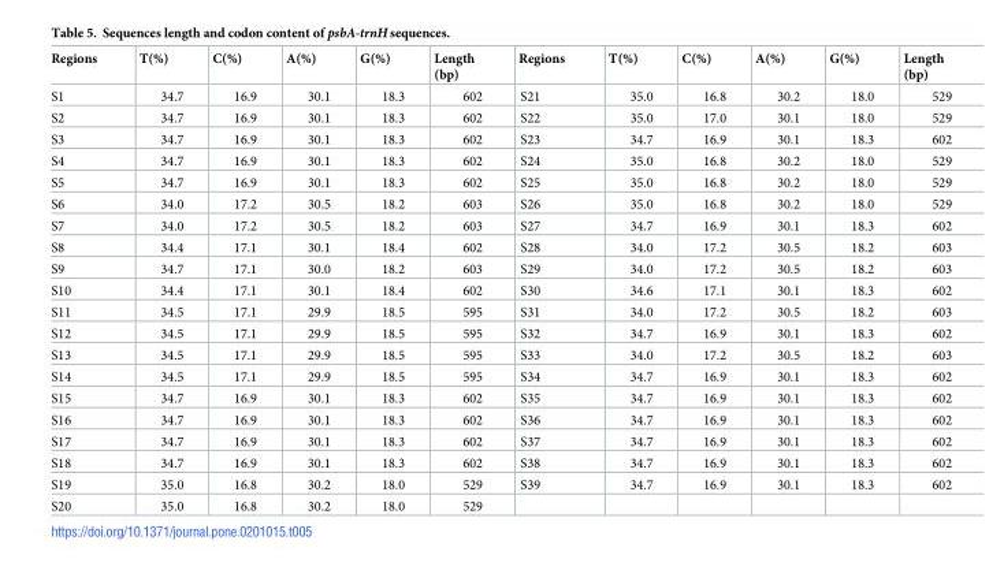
<table><thead><tr><td>Regions</td><td>T(%)</td><td>C(%)</td><td>A(%)</td><td>G(%)</td><td>Length (bp)</td><td>Regions</td><td>T(%)</td><td>C(%)</td><td>A(%)</td><td>G(%)</td><td>Length (bp)</td></tr></thead><tbody><tr><td>S1</td><td>34.7</td><td>16.9</td><td>30.1</td><td>18.3</td><td>602</td><td>S21</td><td>35.0</td><td>16.8</td><td>30.2</td><td>18.0</td><td>529</td></tr><tr><td>S2</td><td>34.7</td><td>16.9</td><td>30.1</td><td>18.3</td><td>602</td><td>S22</td><td>35.0</td><td>17.0</td><td>30.1</td><td>18.0</td><td>529</td></tr><tr><td>S3</td><td>34.7</td><td>16.9</td><td>30.1</td><td>18.3</td><td>602</td><td>S23</td><td>34.7</td><td>16.9</td><td>30.1</td><td>18.3</td><td>602</td></tr><tr><td>S4</td><td>34.7</td><td>16.9</td><td>30.1</td><td>18.3</td><td>602</td><td>S24</td><td>35.0</td><td>16.8</td><td>30.2</td><td>18.0</td><td>529</td></tr><tr><td>S5</td><td>34.7</td><td>16.9</td><td>30.1</td><td>18.3</td><td>602</td><td>S25</td><td>35.0</td><td>16.8</td><td>30.2</td><td>18.0</td><td>529</td></tr><tr><td>S6</td><td>34.0</td><td>17.2</td><td>30.5</td><td>18.2</td><td>603</td><td>S26</td><td>35.0</td><td>16.8</td><td>30.2</td><td>18.0</td><td>529</td></tr><tr><td>S7</td><td>34.0</td><td>17.2</td><td>30.5</td><td>18.2</td><td>603</td><td>S27</td><td>34.7</td><td>16.9</td><td>30.1</td><td>18.3</td><td>602</td></tr><tr><td>S8</td><td>34.4</td><td>17.1</td><td>30.1</td><td>18.4</td><td>602</td><td>S28</td><td>34.0</td><td>17.2</td><td>30.5</td><td>18.2</td><td>603</td></tr><tr><td>S9</td><td>34.7</td><td>17.1</td><td>30.0</td><td>18.2</td><td>603</td><td>S29</td><td>34.0</td><td>17.2</td><td>30.5</td><td>18.2</td><td>603</td></tr><tr><td>S10</td><td>34.4</td><td>17.1</td><td>30.1</td><td>18.4</td><td>602</td><td>S30</td><td>34.6</td><td>17.1</td><td>30.1</td><td>18.3</td><td>602</td></tr><tr><td>S11</td><td>34.5</td><td>17.1</td><td>29.9</td><td>18.5</td><td>595</td><td>S31</td><td>34.0</td><td>17.2</td><td>30.5</td><td>18.2</td><td>603</td></tr><tr><td>S12</td><td>34.5</td><td>17.1</td><td>29.9</td><td>18.5</td><td>595</td><td>S32</td><td>34.7</td><td>16.9</td><td>30.1</td><td>18.3</td><td>602</td></tr><tr><td>S13</td><td>34.5</td><td>17.1</td><td>29.9</td><td>18.5</td><td>595</td><td>S33</td><td>34.0</td><td>17.2</td><td>30.5</td><td>18.2</td><td>603</td></tr><tr><td>S14</td><td>34.5</td><td>17.1</td><td>29.9</td><td>18.5</td><td>595</td><td>S34</td><td>34.7</td><td>16.9</td><td>30.1</td><td>18.3</td><td>602</td></tr><tr><td>S15</td><td>34.7</td><td>16.9</td><td>30.1</td><td>18.3</td><td>602</td><td>S35</td><td>34.7</td><td>16.9</td><td>30.1</td><td>18.3</td><td>602</td></tr><tr><td>S16</td><td>34.7</td><td>16.9</td><td>30.1</td><td>18.3</td><td>602</td><td>S36</td><td>34.7</td><td>16.9</td><td>30.1</td><td>18.3</td><td>602</td></tr><tr><td>S17</td><td>34.7</td><td>16.9</td><td>30.1</td><td>18.3</td><td>602</td><td>S37</td><td>34.7</td><td>16.9</td><td>30.1</td><td>18.3</td><td>602</td></tr><tr><td>S18</td><td>34.7</td><td>16.9</td><td>30.1</td><td>18.3</td><td>602</td><td>S38</td><td>34.7</td><td>16.9</td><td>30.1</td><td>18.3</td><td>602</td></tr><tr><td>S19</td><td>35.0</td><td>16.8</td><td>30.2</td><td>18.0</td><td>529</td><td>S39</td><td>34.7</td><td>16.9</td><td>30.1</td><td>18.3</td><td>602</td></tr><tr><td>S20</td><td>35.0</td><td>16.8</td><td>30.2</td><td>18.0</td><td>529</td><td></td><td></td><td></td><td></td><td></td><td></td></tr></tbody></table>